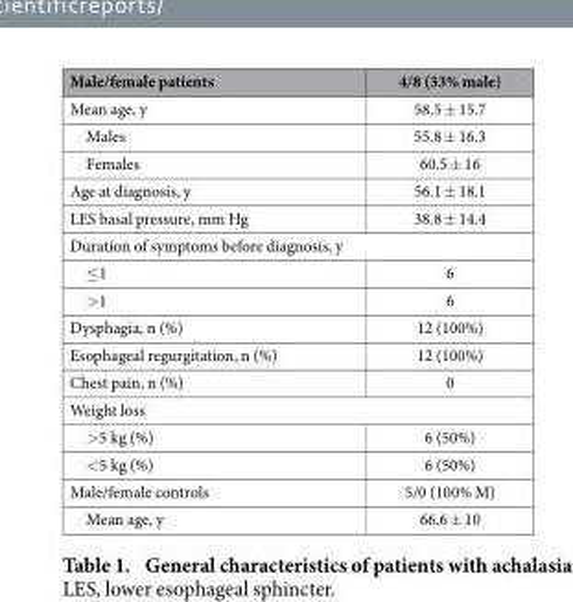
<table><thead><tr><td>Male/female patients</td><td>4/8 (33% male)</td></tr></thead><tbody><tr><td>Mean age, y</td><td>58.5 ± 15.7</td></tr><tr><td>Males</td><td>55.8 ± 16.3</td></tr><tr><td>Females</td><td>60.5 ± 16</td></tr><tr><td>Age at diagnosis, y</td><td>56.1 ± 18.1</td></tr><tr><td>LES basal pressure, mm Hg</td><td>38.8 ± 14.4</td></tr><tr><td colspan="2">Duration of symptoms before diagnosis, y</td></tr><tr><td>≤ 1</td><td>6</td></tr><tr><td>&gt; 1</td><td>6</td></tr><tr><td>Dysphagia, n (%)</td><td>12 (100%)</td></tr><tr><td>Esophageal regurgitation, n (%)</td><td>12 (100%)</td></tr><tr><td>Chest pain, n (%)</td><td>0</td></tr><tr><td colspan="2">Weight loss</td></tr><tr><td>&gt; 5 kg (%)</td><td>6 (50%)</td></tr><tr><td>&lt; 5 kg (%)</td><td>6 (50%)</td></tr><tr><td>Male/female controls</td><td>5/0 (100% M)</td></tr><tr><td>Mean age, y</td><td>66.6 ± 10</td></tr></tbody></table>